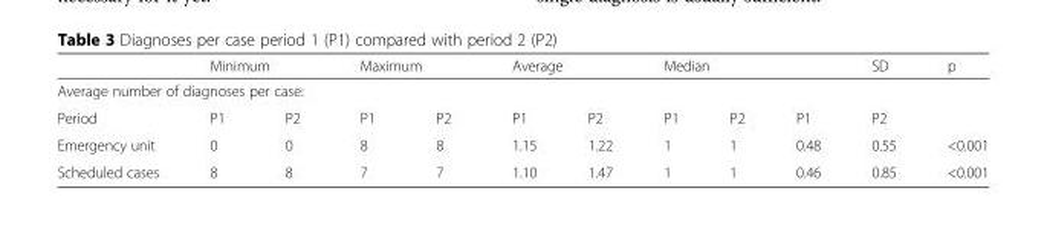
<table><thead><tr><td></td><td colspan="2">Minimum</td><td colspan="2">Maximum</td><td colspan="2">Average</td><td colspan="3">Median</td><td>SD</td><td>p</td></tr><tr><td colspan="12">Average number of diagnoses per case:</td></tr><tr><td>Period</td><td>P1</td><td>P2</td><td>P1</td><td>P2</td><td>P1</td><td>P2</td><td>P1</td><td>P2</td><td>P1</td><td>P2</td><td></td></tr></thead><tbody><tr><td>Emergency unit</td><td>0</td><td>0</td><td>8</td><td>8</td><td>1.15</td><td>1.22</td><td>1</td><td>1</td><td>0.48</td><td>0.55</td><td>&lt;0.001</td></tr><tr><td>Scheduled cases</td><td>8</td><td>8</td><td>7</td><td>7</td><td>1.10</td><td>1.47</td><td>1</td><td>1</td><td>0.46</td><td>0.85</td><td>&lt;0.001</td></tr></tbody></table>